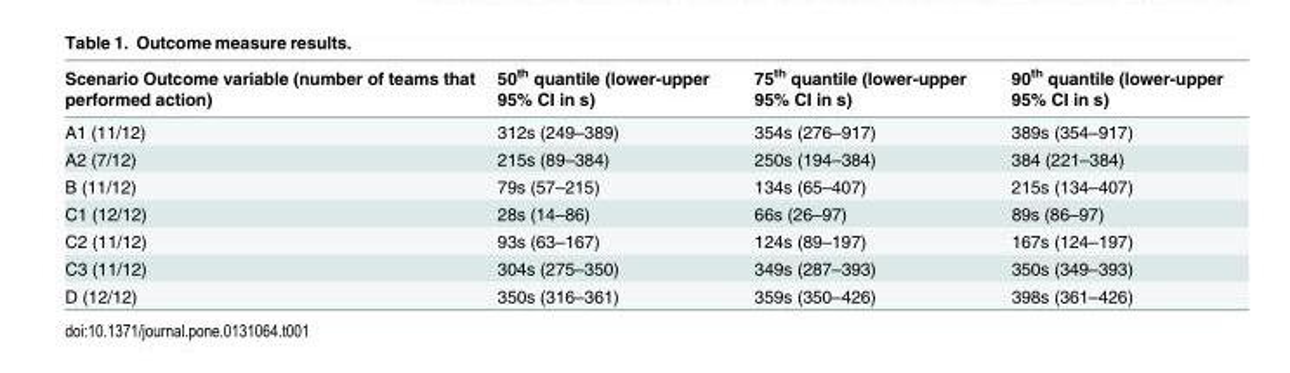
<table><thead><tr><td>Scenario Outcome variable (number of teams that performed action)</td><td>50<sup>th</sup> quantile (lower-upper 95% CI in s)</td><td>75<sup>th</sup> quantile (lower-upper 95% CI in s)</td><td>90<sup>th</sup> quantile (lower-upper 95% CI in s)</td></tr></thead><tbody><tr><td>A1 (11/12)</td><td>312s (249–389)</td><td>354s (276–917)</td><td>389s (354–917)</td></tr><tr><td>A2 (7/12)</td><td>215s (89–384)</td><td>250s (194–384)</td><td>384 (221–384)</td></tr><tr><td>B (11/12)</td><td>79s (57–215)</td><td>134s (65–407)</td><td>215s (134–407)</td></tr><tr><td>C1 (12/12)</td><td>28s (14–86)</td><td>66s (26–97)</td><td>89s (86–97)</td></tr><tr><td>C2 (11/12)</td><td>93s (63–167)</td><td>124s (89–197)</td><td>167s (124–197)</td></tr><tr><td>C3 (11/12)</td><td>304s (275–350)</td><td>349s (287–393)</td><td>350s (349–393)</td></tr><tr><td>D (12/12)</td><td>350s (316–361)</td><td>359s (350–426)</td><td>398s (361–426)</td></tr></tbody></table>